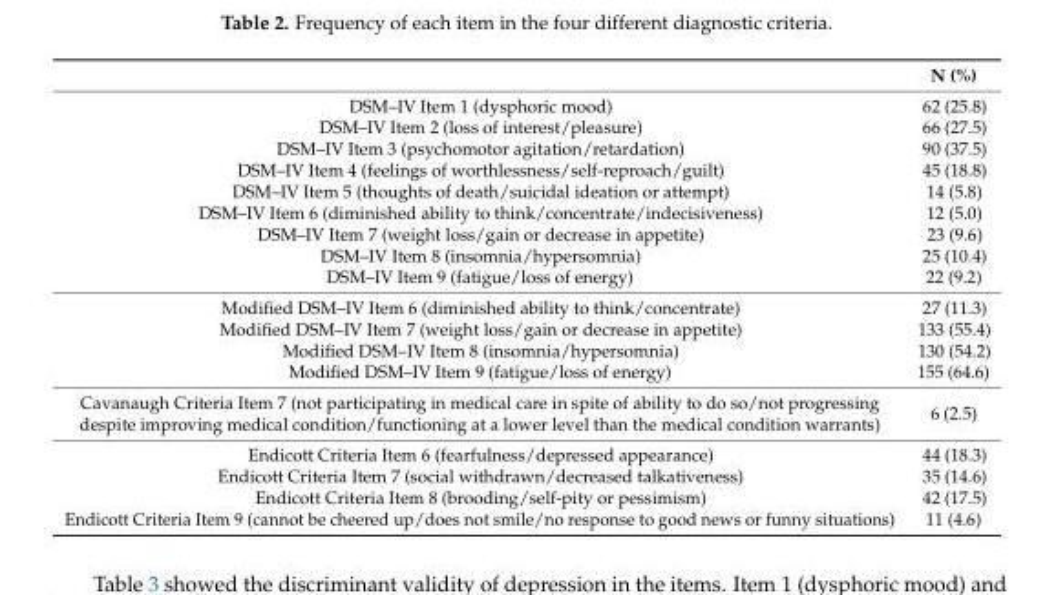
<table><thead><tr><td></td><td>N (%)</td></tr></thead><tbody><tr><td>DSM–IV Item 1 (dysphoric mood) DSM–IV Item 2 (loss of interest/pleasure) DSM–IV Item 3 (psychomotor agitation/retardation) DSM–IV Item 4 (feelings of worthlessness/self-reproach/guilt) DSM–IV Item 5 (thoughts of death/suicidal ideation or attempt) DSM–IV Item 6 (diminished ability to think/concentrate/indecisiveness) DSM–IV Item 7 (weight loss/gain or decrease in appetite) DSM–IV Item 8 (insomnia/hypersomnia) DSM–IV Item 9 (fatigue/loss of energy)</td><td>62 (25.8) 66 (27.5) 90 (37.5) 45 (18.8) 14 (5.8) 12 (5.0) 23 (9.6) 25 (10.4) 22 (9.2)</td></tr><tr><td>Modified DSM–IV Item 6 (diminished ability to think/concentrate) Modified DSM–IV Item 7 (weight loss/gain or decrease in appetite) Modified DSM–IV Item 8 (insomnia/hypersomnia) Modified DSM–IV Item 9 (fatigue/loss of energy)</td><td>27 (11.3) 133 (55.4) 130 (54.2) 155 (64.6)</td></tr><tr><td>Cavanaugh Criteria Item 7 (not participating in medical care in spite of ability to do so/not progressing despite improving medical condition/functioning at a lower level than the medical condition warrants)</td><td>6 (2.5)</td></tr><tr><td>Endicott Criteria Item 6 (fearfulness/depressed appearance) Endicott Criteria Item 7 (social withdrawn/decreased talkativeness) Endicott Criteria Item 8 (brooding/self-pity or pessimism) Endicott Criteria Item 9 (cannot be cheered up/does not smile/no response to good news or funny situations)</td><td>44 (18.3) 35 (14.6) 42 (17.5) 11 (4.6)</td></tr></tbody></table>